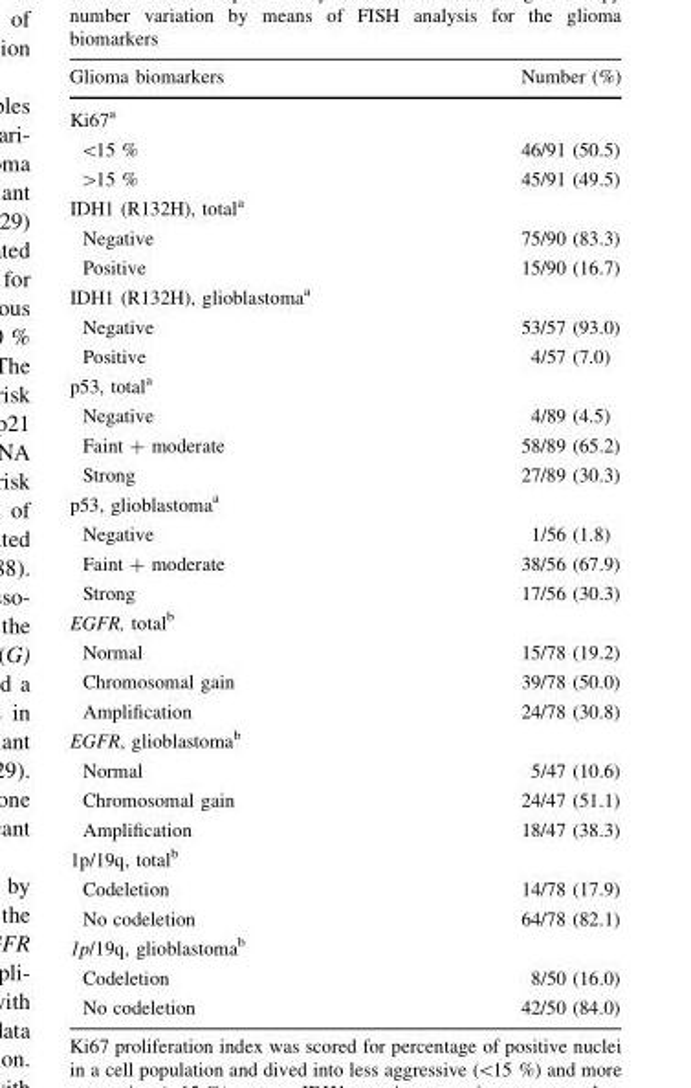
<table><thead><tr><td>Glioma biomarkers</td><td>Number (%)</td></tr></thead><tbody><tr><td colspan="2">Ki67<sup>a</sup></td></tr><tr><td>&lt;15 %</td><td>46/91 (50.5)</td></tr><tr><td>&gt;15 %</td><td>45/91 (49.5)</td></tr><tr><td colspan="2">IDH1 (R132H), total<sup>a</sup></td></tr><tr><td>Negative</td><td>75/90 (83.3)</td></tr><tr><td>Positive</td><td>15/90 (16.7)</td></tr><tr><td colspan="2">IDH1 (R132H), glioblastoma<sup>a</sup></td></tr><tr><td>Negative</td><td>53/57 (93.0)</td></tr><tr><td>Positive</td><td>4/57 (7.0)</td></tr><tr><td colspan="2">p53, total<sup>a</sup></td></tr><tr><td>Negative</td><td>4/89 (4.5)</td></tr><tr><td>Faint + moderate</td><td>58/89 (65.2)</td></tr><tr><td>Strong</td><td>27/89 (30.3)</td></tr><tr><td colspan="2">p53, glioblastoma<sup>a</sup></td></tr><tr><td>Negative</td><td>1/56 (1.8)</td></tr><tr><td>Faint + moderate</td><td>38/56 (67.9)</td></tr><tr><td>Strong</td><td>17/56 (30.3)</td></tr><tr><td colspan="2">EGFR, total<sup>b</sup></td></tr><tr><td>Normal</td><td>15/78 (19.2)</td></tr><tr><td>Chromosomal gain</td><td>39/78 (50.0)</td></tr><tr><td>Amplification</td><td>24/78 (30.8)</td></tr><tr><td colspan="2">EGFR, glioblastoma<sup>b</sup></td></tr><tr><td>Normal</td><td>5/47 (10.6)</td></tr><tr><td>Chromosomal gain</td><td>24/47 (51.1)</td></tr><tr><td>Amplification</td><td>18/47 (38.3)</td></tr><tr><td colspan="2">1p/19q, total<sup>b</sup></td></tr><tr><td>Codeletion</td><td>14/78 (17.9)</td></tr><tr><td>No codeletion</td><td>64/78 (82.1)</td></tr><tr><td colspan="2">1p/19q, glioblastoma<sup>b</sup></td></tr><tr><td>Codeletion</td><td>8/50 (16.0)</td></tr><tr><td>No codeletion</td><td>42/50 (84.0)</td></tr></tbody></table>